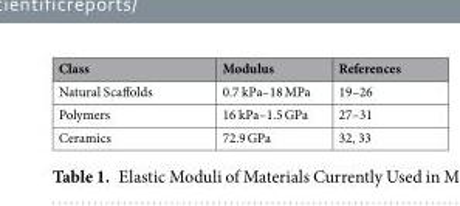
<table><thead><tr><td>Class</td><td>Modulus</td><td>References</td></tr></thead><tbody><tr><td>Natural Scaffolds</td><td>0.7 kPa–18 MPa</td><td>19–26</td></tr><tr><td>Polymers</td><td>16 kPa–1.5 GPa</td><td>27–31</td></tr><tr><td>Ceramics</td><td>72.9 GPa</td><td>32, 33</td></tr></tbody></table>